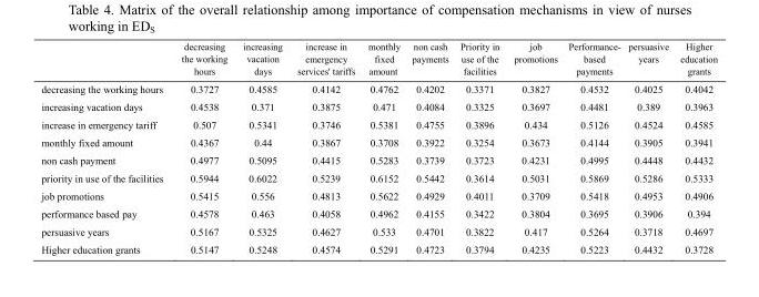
<table><thead><tr><td></td><td>decreasing the working hours</td><td>increasing vacation days</td><td>increase in emergency services&#x27; tariffs</td><td>monthly fixed amount</td><td>non cash payments</td><td>Priority in use of the facilities</td><td>job promotions</td><td>Performance- based payments</td><td>persuasive years</td><td>Higher education grants</td></tr></thead><tbody><tr><td>decreasing the working hours</td><td>0.3727</td><td>0.4585</td><td>0.4142</td><td>0.4762</td><td>0.4202</td><td>0.3371</td><td>0.3827</td><td>0.4532</td><td>0.4025</td><td>0.4042</td></tr><tr><td>increasing vacation days</td><td>0.4538</td><td>0.371</td><td>0.3875</td><td>0.471</td><td>0.4084</td><td>0.3325</td><td>0.3697</td><td>0.4481</td><td>0.389</td><td>0.3963</td></tr><tr><td>increase in emergency tariff</td><td>0.507</td><td>0.5341</td><td>0.3746</td><td>0.5381</td><td>0.4755</td><td>0.3896</td><td>0.434</td><td>0.5126</td><td>0.4524</td><td>0.4585</td></tr><tr><td>monthly fixed amount</td><td>0.4367</td><td>0.44</td><td>0.3867</td><td>0.3708</td><td>0.3922</td><td>0.3254</td><td>0.3673</td><td>0.4144</td><td>0.3905</td><td>0.3941</td></tr><tr><td>non cash payment</td><td>0.4977</td><td>0.5095</td><td>0.4415</td><td>0.5283</td><td>0.3739</td><td>0.3723</td><td>0.4231</td><td>0.4995</td><td>0.4448</td><td>0.4432</td></tr><tr><td>priority in use of the facilities</td><td>0.5944</td><td>0.6022</td><td>0.5239</td><td>0.6152</td><td>0.5442</td><td>0.3614</td><td>0.5031</td><td>0.5869</td><td>0.5286</td><td>0.5333</td></tr><tr><td>job promotions</td><td>0.5415</td><td>0.556</td><td>0.4813</td><td>0.5622</td><td>0.4929</td><td>0.4011</td><td>0.3709</td><td>0.5418</td><td>0.4953</td><td>0.4906</td></tr><tr><td>performance based pay</td><td>0.4578</td><td>0.463</td><td>0.4058</td><td>0.4962</td><td>0.4155</td><td>0.3422</td><td>0.3804</td><td>0.3695</td><td>0.3906</td><td>0.394</td></tr><tr><td>persuasive years</td><td>0.5167</td><td>0.5325</td><td>0.4627</td><td>0.533</td><td>0.4701</td><td>0.3822</td><td>0.417</td><td>0.5264</td><td>0.3718</td><td>0.4697</td></tr><tr><td>Higher education grants</td><td>0.5147</td><td>0.5248</td><td>0.4574</td><td>0.5291</td><td>0.4723</td><td>0.3794</td><td>0.4235</td><td>0.5223</td><td>0.4432</td><td>0.3728</td></tr></tbody></table>